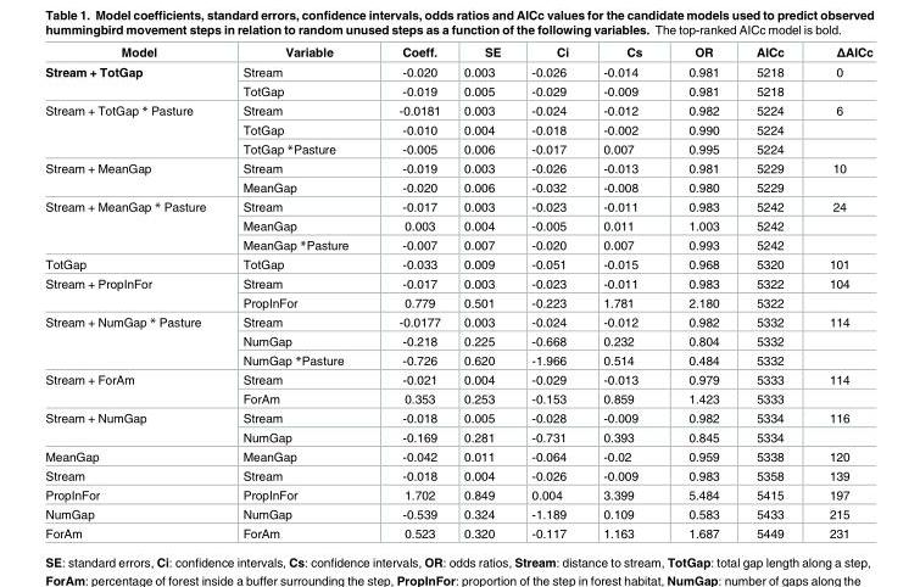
<table><thead><tr><td>Model</td><td>Variable</td><td>Coeff.</td><td>SE</td><td>Ci</td><td>Cs</td><td>OR</td><td>AICc</td><td>ΔAICc</td></tr></thead><tbody><tr><td rowspan="2">Stream + TotGap</td><td>Stream</td><td>-0.020</td><td>0.003</td><td>-0.026</td><td>-0.014</td><td>0.981</td><td>5218</td><td>0</td></tr><tr><td>TotGap</td><td>-0.019</td><td>0.005</td><td>-0.029</td><td>-0.009</td><td>0.981</td><td>5218</td><td></td></tr><tr><td rowspan="3">Stream + TotGap * Pasture</td><td>Stream</td><td>-0.0181</td><td>0.003</td><td>-0.024</td><td>-0.012</td><td>0.982</td><td>5224</td><td>6</td></tr><tr><td>TotGap</td><td>-0.010</td><td>0.004</td><td>-0.018</td><td>-0.002</td><td>0.990</td><td>5224</td><td></td></tr><tr><td>TotGap *Pasture</td><td>-0.005</td><td>0.006</td><td>-0.017</td><td>0.007</td><td>0.995</td><td>5224</td><td></td></tr><tr><td rowspan="2">Stream + MeanGap</td><td>Stream</td><td>-0.019</td><td>0.003</td><td>-0.026</td><td>-0.013</td><td>0.981</td><td>5229</td><td>10</td></tr><tr><td>MeanGap</td><td>-0.020</td><td>0.006</td><td>-0.032</td><td>-0.008</td><td>0.980</td><td>5229</td><td></td></tr><tr><td rowspan="3">Stream + MeanGap * Pasture</td><td>Stream</td><td>-0.017</td><td>0.003</td><td>-0.023</td><td>-0.011</td><td>0.983</td><td>5242</td><td>24</td></tr><tr><td>MeanGap</td><td>0.003</td><td>0.004</td><td>-0.005</td><td>0.011</td><td>1.003</td><td>5242</td><td></td></tr><tr><td>MeanGap *Pasture</td><td>-0.007</td><td>0.007</td><td>-0.020</td><td>0.007</td><td>0.993</td><td>5242</td><td></td></tr><tr><td>TotGap</td><td>TotGap</td><td>-0.033</td><td>0.009</td><td>-0.051</td><td>-0.015</td><td>0.968</td><td>5320</td><td>101</td></tr><tr><td rowspan="2">Stream + PropInFor</td><td>Stream</td><td>-0.017</td><td>0.003</td><td>-0.023</td><td>-0.011</td><td>0.983</td><td>5322</td><td>104</td></tr><tr><td>PropInFor</td><td>0.779</td><td>0.501</td><td>-0.223</td><td>1.781</td><td>2.180</td><td>5322</td><td></td></tr><tr><td rowspan="3">Stream + NumGap * Pasture</td><td>Stream</td><td>-0.0177</td><td>0.003</td><td>-0.024</td><td>-0.012</td><td>0.982</td><td>5332</td><td>114</td></tr><tr><td>NumGap</td><td>-0.218</td><td>0.225</td><td>-0.668</td><td>0.232</td><td>0.804</td><td>5332</td><td></td></tr><tr><td>NumGap *Pasture</td><td>-0.726</td><td>0.620</td><td>-1.966</td><td>0.514</td><td>0.484</td><td>5332</td><td></td></tr><tr><td rowspan="2">Stream + ForAm</td><td>Stream</td><td>-0.021</td><td>0.004</td><td>-0.029</td><td>-0.013</td><td>0.979</td><td>5333</td><td>114</td></tr><tr><td>ForAm</td><td>0.353</td><td>0.253</td><td>-0.153</td><td>0.859</td><td>1.423</td><td>5333</td><td></td></tr><tr><td rowspan="2">Stream + NumGap</td><td>Stream</td><td>-0.018</td><td>0.005</td><td>-0.028</td><td>-0.009</td><td>0.982</td><td>5334</td><td>116</td></tr><tr><td>NumGap</td><td>-0.169</td><td>0.281</td><td>-0.731</td><td>0.393</td><td>0.845</td><td>5334</td><td></td></tr><tr><td>MeanGap</td><td>MeanGap</td><td>-0.042</td><td>0.011</td><td>-0.064</td><td>-0.02</td><td>0.959</td><td>5338</td><td>120</td></tr><tr><td>Stream</td><td>Stream</td><td>-0.018</td><td>0.004</td><td>-0.026</td><td>-0.009</td><td>0.983</td><td>5358</td><td>139</td></tr><tr><td>PropInFor</td><td>PropInFor</td><td>1.702</td><td>0.849</td><td>0.004</td><td>3.399</td><td>5.484</td><td>5415</td><td>197</td></tr><tr><td>NumGap</td><td>NumGap</td><td>-0.539</td><td>0.324</td><td>-1.189</td><td>0.109</td><td>0.583</td><td>5433</td><td>215</td></tr><tr><td>ForAm</td><td>ForAm</td><td>0.523</td><td>0.320</td><td>-0.117</td><td>1.163</td><td>1.687</td><td>5449</td><td>231</td></tr></tbody></table>